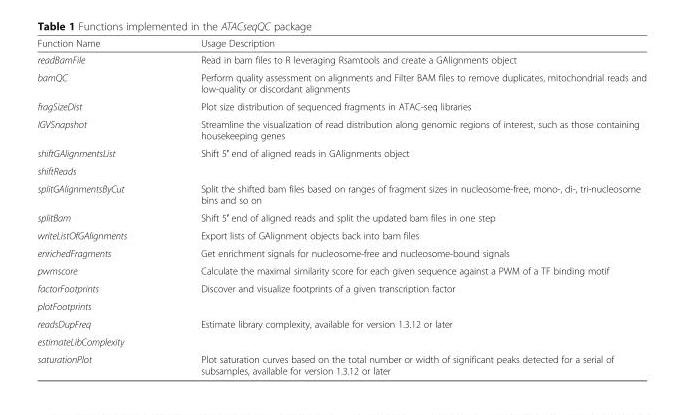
<table><thead><tr><td>Function Name</td><td>Usage Description</td></tr></thead><tbody><tr><td>readBamFile</td><td>Read in bam files to R leveraging Rsamtools and create a GAlignments object</td></tr><tr><td>bamQC</td><td>Perform quality assessment on alignments and Filter BAM files to remove duplicates, mitochondrial reads and low-quality or discordant alignments</td></tr><tr><td>fragSizeDist</td><td>Plot size distribution of sequenced fragments in ATAC-seq libraries</td></tr><tr><td>IGVSnapshot</td><td>Streamline the visualization of read distribution along genomic regions of interest, such as those containing housekeeping genes</td></tr><tr><td>shiftGAlignmentsList</td><td rowspan="2">Shift 5′ end of aligned reads in GAlignments object</td></tr><tr><td>shiftReads</td></tr><tr><td>splitGAlignmentsByCut</td><td>Split the shifted bam files based on ranges of fragment sizes in nucleosome-free, mono-, di-, tri-nucleosome bins and so on</td></tr><tr><td>splitBam</td><td>Shift 5′ end of aligned reads and split the updated bam files in one step</td></tr><tr><td>writeListOfGAlignments</td><td>Export lists of GAlignment objects back into bam files</td></tr><tr><td>enrichedFragments</td><td>Get enrichment signals for nucleosome-free and nucleosome-bound signals</td></tr><tr><td>pwmscore</td><td>Calculate the maximal similarity score for each given sequence against a PWM of a TF binding motif</td></tr><tr><td>factorFootprints</td><td rowspan="2">Discover and visualize footprints of a given transcription factor</td></tr><tr><td>plotFootprints</td></tr><tr><td>readsDupFreq</td><td rowspan="2">Estimate library complexity, available for version 1.3.12 or later</td></tr><tr><td>estimateLibComplexity</td></tr><tr><td>saturationPlot</td><td>Plot saturation curves based on the total number or width of significant peaks detected for a serial of subsamples, available for version 1.3.12 or later</td></tr></tbody></table>